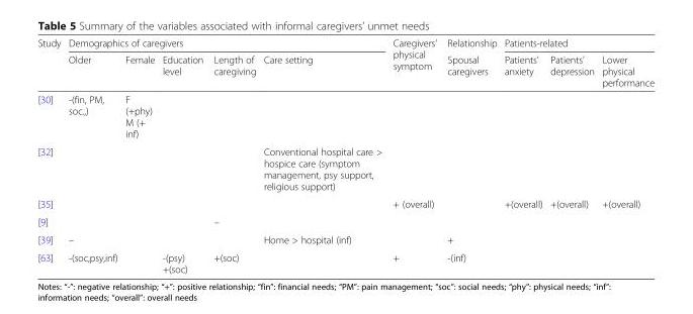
<table><thead><tr><td rowspan="2">Study</td><td colspan="5">Demographics of caregivers</td><td rowspan="2">Caregivers’ physical symptom</td><td rowspan="2">Relationship Spousal caregivers</td><td colspan="3">Patients-related</td></tr><tr><td>Older</td><td>Female</td><td>Education level</td><td>Length of caregiving</td><td>Care setting</td><td>Patients’ anxiety</td><td>Patients’ depression</td><td>Lower physical performance</td></tr></thead><tbody><tr><td>[30]</td><td>-(fin, PM, soc.,)</td><td>F (+phy) M (+ inf)</td><td></td><td></td><td></td><td></td><td></td><td></td><td></td><td></td></tr><tr><td>[32]</td><td></td><td></td><td></td><td></td><td>Conventional hospital care &gt; hospice care (symptom management, psy support, religious support)</td><td></td><td></td><td></td><td></td><td></td></tr><tr><td>[35]</td><td></td><td></td><td></td><td></td><td></td><td>+ (overall)</td><td></td><td>+(overall)</td><td>+(overall)</td><td>+(overall)</td></tr><tr><td>[9]</td><td></td><td></td><td></td><td>–</td><td></td><td></td><td></td><td></td><td></td><td></td></tr><tr><td>[39]</td><td>–</td><td></td><td></td><td></td><td>Home &gt; hospital (inf)</td><td></td><td>+</td><td></td><td></td><td></td></tr><tr><td>[63]</td><td>-(soc,psy,inf)</td><td></td><td>-(psy) +(soc)</td><td>+(soc)</td><td></td><td>+</td><td>-(inf)</td><td></td><td></td><td></td></tr></tbody></table>